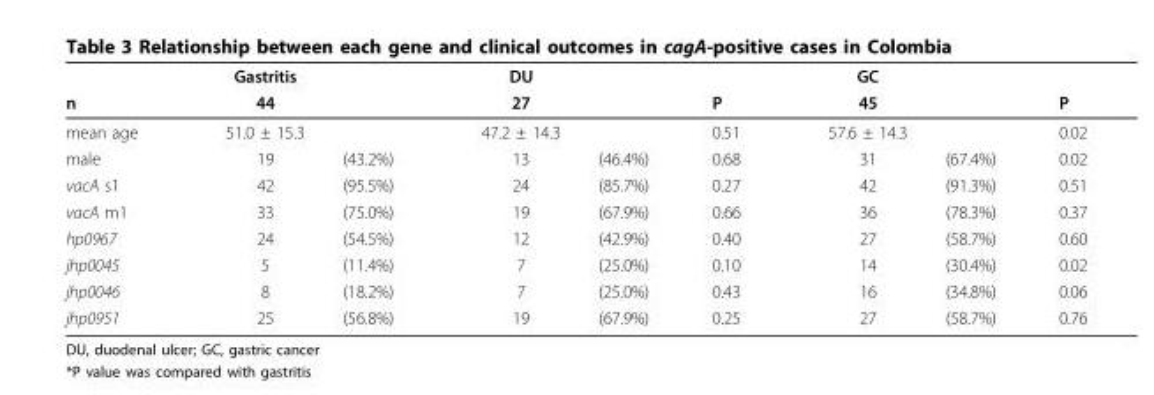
<table><thead><tr><td rowspan="2">n</td><td rowspan="2">Gastritis 44</td><td rowspan="2"></td><td rowspan="2">DU 27</td><td rowspan="2"></td><td rowspan="2">P</td><td rowspan="2">GC 45</td><td rowspan="2"></td><td rowspan="2">P</td></tr><tr></tr></thead><tbody><tr><td>mean age</td><td>51.0 ± 15.3</td><td></td><td>47.2 ± 14.3</td><td></td><td>0.51</td><td>57.6 ± 14.3</td><td></td><td>0.02</td></tr><tr><td>male</td><td>19</td><td>(43.2%)</td><td>13</td><td>(46.4%)</td><td>0.68</td><td>31</td><td>(67.4%)</td><td>0.02</td></tr><tr><td>vacA s1</td><td>42</td><td>(95.5%)</td><td>24</td><td>(85.7%)</td><td>0.27</td><td>42</td><td>(91.3%)</td><td>0.51</td></tr><tr><td>vacA m1</td><td>33</td><td>(75.0%)</td><td>19</td><td>(67.9%)</td><td>0.66</td><td>36</td><td>(78.3%)</td><td>0.37</td></tr><tr><td>hp0967</td><td>24</td><td>(54.5%)</td><td>12</td><td>(42.9%)</td><td>0.40</td><td>27</td><td>(58.7%)</td><td>0.60</td></tr><tr><td>jhp0045</td><td>5</td><td>(11.4%)</td><td>7</td><td>(25.0%)</td><td>0.10</td><td>14</td><td>(30.4%)</td><td>0.02</td></tr><tr><td>jhp0046</td><td>8</td><td>(18.2%)</td><td>7</td><td>(25.0%)</td><td>0.43</td><td>16</td><td>(34.8%)</td><td>0.06</td></tr><tr><td>jhp0951</td><td>25</td><td>(56.8%)</td><td>19</td><td>(67.9%)</td><td>0.25</td><td>27</td><td>(58.7%)</td><td>0.76</td></tr></tbody></table>